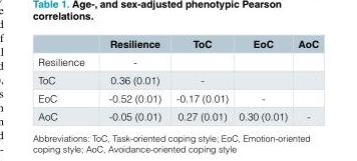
<table><thead><tr><td></td><td>Resilience</td><td>ToC</td><td>EoC</td><td>AoC</td></tr></thead><tbody><tr><td>Resilience</td><td>-</td><td></td><td></td><td></td></tr><tr><td>ToC</td><td>0.36 (0.01)</td><td>-</td><td></td><td></td></tr><tr><td>EoC</td><td>-0.52 (0.01)</td><td>-0.17 (0.01)</td><td>-</td><td></td></tr><tr><td>AoC</td><td>-0.05 (0.01)</td><td>0.27 (0.01)</td><td>0.30 (0.01)</td><td>-</td></tr></tbody></table>